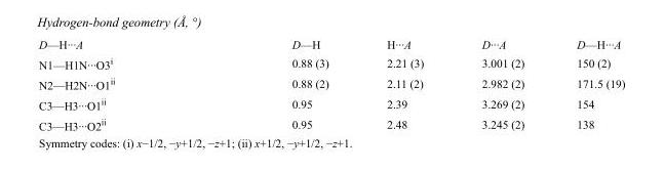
<table><tbody><tr><td>D—H···A</td><td>D—H</td><td>H···A</td><td>D···A</td><td>D—H···A</td></tr><tr><td>N1—H1N···O3<sup>i</sup></td><td>0.88 (3)</td><td>2.21 (3)</td><td>3.001 (2)</td><td>150 (2)</td></tr><tr><td>N2—H2N···O1<sup>ii</sup></td><td>0.88 (2)</td><td>2.11 (2)</td><td>2.982 (2)</td><td>171.5 (19)</td></tr><tr><td>C3—H3···O1<sup>ii</sup></td><td>0.95</td><td>2.39</td><td>3.269 (2)</td><td>154</td></tr><tr><td>C3—H3···O2<sup>ii</sup></td><td>0.95</td><td>2.48</td><td>3.245 (2)</td><td>138</td></tr></tbody></table>